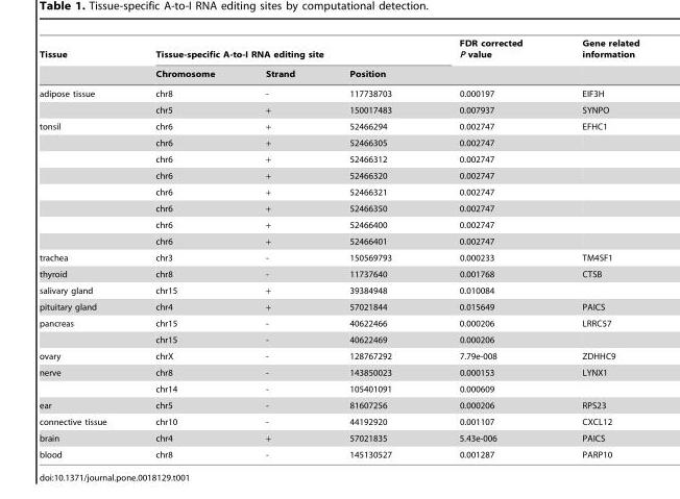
<table><thead><tr><td rowspan="2">Tissue</td><td colspan="3">Tissue-specific A-to-I RNA editing site</td><td rowspan="2">FDR corrected P value</td><td rowspan="2">Gene related information</td></tr><tr><td>Chromosome</td><td>Strand</td><td>Position</td></tr></thead><tbody><tr><td rowspan="2">adipose tissue</td><td>chr8</td><td>-</td><td>117738703</td><td>0.000197</td><td>EIF3H</td></tr><tr><td>chr5</td><td>+</td><td>150017483</td><td>0.007937</td><td>SYNPO</td></tr><tr><td rowspan="8">tonsil</td><td>chr6</td><td>+</td><td>52466294</td><td>0.002747</td><td>EFHC1</td></tr><tr><td>chr6</td><td>+</td><td>52466305</td><td>0.002747</td><td></td></tr><tr><td>chr6</td><td>+</td><td>52466312</td><td>0.002747</td><td></td></tr><tr><td>chr6</td><td>+</td><td>52466320</td><td>0.002747</td><td></td></tr><tr><td>chr6</td><td>+</td><td>52466321</td><td>0.002747</td><td></td></tr><tr><td>chr6</td><td>+</td><td>52466350</td><td>0.002747</td><td></td></tr><tr><td>chr6</td><td>+</td><td>52466400</td><td>0.002747</td><td></td></tr><tr><td>chr6</td><td>+</td><td>52466401</td><td>0.002747</td><td></td></tr><tr><td>trachea</td><td>chr3</td><td>-</td><td>150569793</td><td>0.000233</td><td>TM4SF1</td></tr><tr><td>thyroid</td><td>chr8</td><td>-</td><td>11737640</td><td>0.001768</td><td>CTSB</td></tr><tr><td>salivary gland</td><td>chr15</td><td>+</td><td>39384948</td><td>0.010084</td><td></td></tr><tr><td>pituitary gland</td><td>chr4</td><td>+</td><td>57021844</td><td>0.015649</td><td>PAICS</td></tr><tr><td rowspan="2">pancreas</td><td>chr15</td><td>-</td><td>40622466</td><td>0.000206</td><td>LRRC57</td></tr><tr><td>chr15</td><td>-</td><td>40622469</td><td>0.000206</td><td></td></tr><tr><td>ovary</td><td>chrX</td><td>-</td><td>128767292</td><td>7.79e-008</td><td>ZDHHC9</td></tr><tr><td rowspan="2">nerve</td><td>chr8</td><td>-</td><td>143850023</td><td>0.000153</td><td>LYNX1</td></tr><tr><td>chr14</td><td>-</td><td>105401091</td><td>0.000609</td><td></td></tr><tr><td>ear</td><td>chr5</td><td>-</td><td>81607256</td><td>0.000206</td><td>RPS23</td></tr><tr><td>connective tissue</td><td>chr10</td><td>-</td><td>44192920</td><td>0.001107</td><td>CXCL12</td></tr><tr><td>brain</td><td>chr4</td><td>+</td><td>57021835</td><td>5.43e-006</td><td>PAICS</td></tr><tr><td>blood</td><td>chr8</td><td>-</td><td>145130527</td><td>0.001287</td><td>PARP10</td></tr></tbody></table>